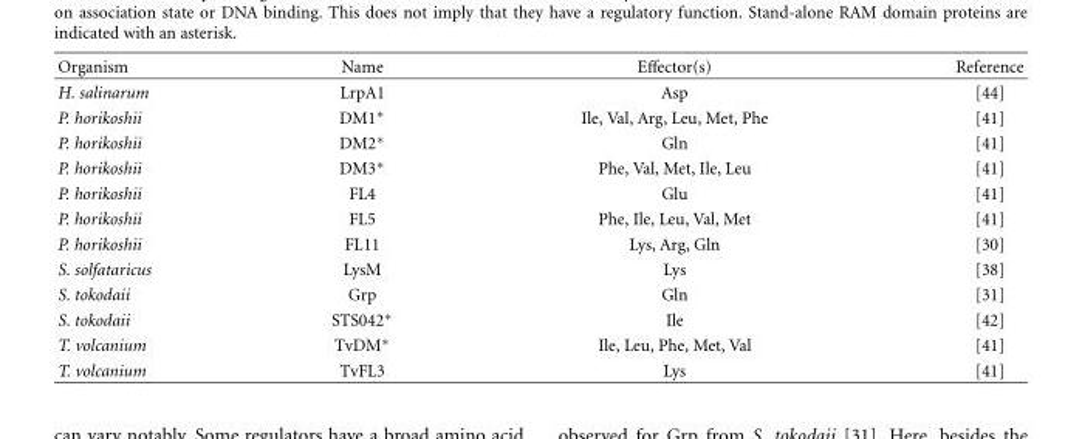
<table><thead><tr><td>Organism</td><td>Name</td><td>Effector(s)</td><td>Reference</td></tr></thead><tbody><tr><td>H. salinarum</td><td>LrpA1</td><td>Asp</td><td>[44]</td></tr><tr><td>P. horikoshii</td><td>DM1∗</td><td>Ile, Val, Arg, Leu, Met, Phe</td><td>[41]</td></tr><tr><td>P. horikoshii</td><td>DM2∗</td><td>Gln</td><td>[41]</td></tr><tr><td>P. horikoshii</td><td>DM3∗</td><td>Phe, Val, Met, Ile, Leu</td><td>[41]</td></tr><tr><td>P. horikoshii</td><td>FL4</td><td>Glu</td><td>[41]</td></tr><tr><td>P. horikoshii</td><td>FL5</td><td>Phe, Ile, Leu, Val, Met</td><td>[41]</td></tr><tr><td>P. horikoshii</td><td>FL11</td><td>Lys, Arg, Gln</td><td>[30]</td></tr><tr><td>S. solfataricus</td><td>LysM</td><td>Lys</td><td>[38]</td></tr><tr><td>S. tokodaii</td><td>Grp</td><td>Gln</td><td>[31]</td></tr><tr><td>S. tokodaii</td><td>STS042∗</td><td>Ile</td><td>[42]</td></tr><tr><td>T. volcanium</td><td>TvDM∗</td><td>Ile, Leu, Phe, Met, Val</td><td>[41]</td></tr><tr><td>T. volcanium</td><td>TvFL3</td><td>Lys</td><td>[41]</td></tr></tbody></table>